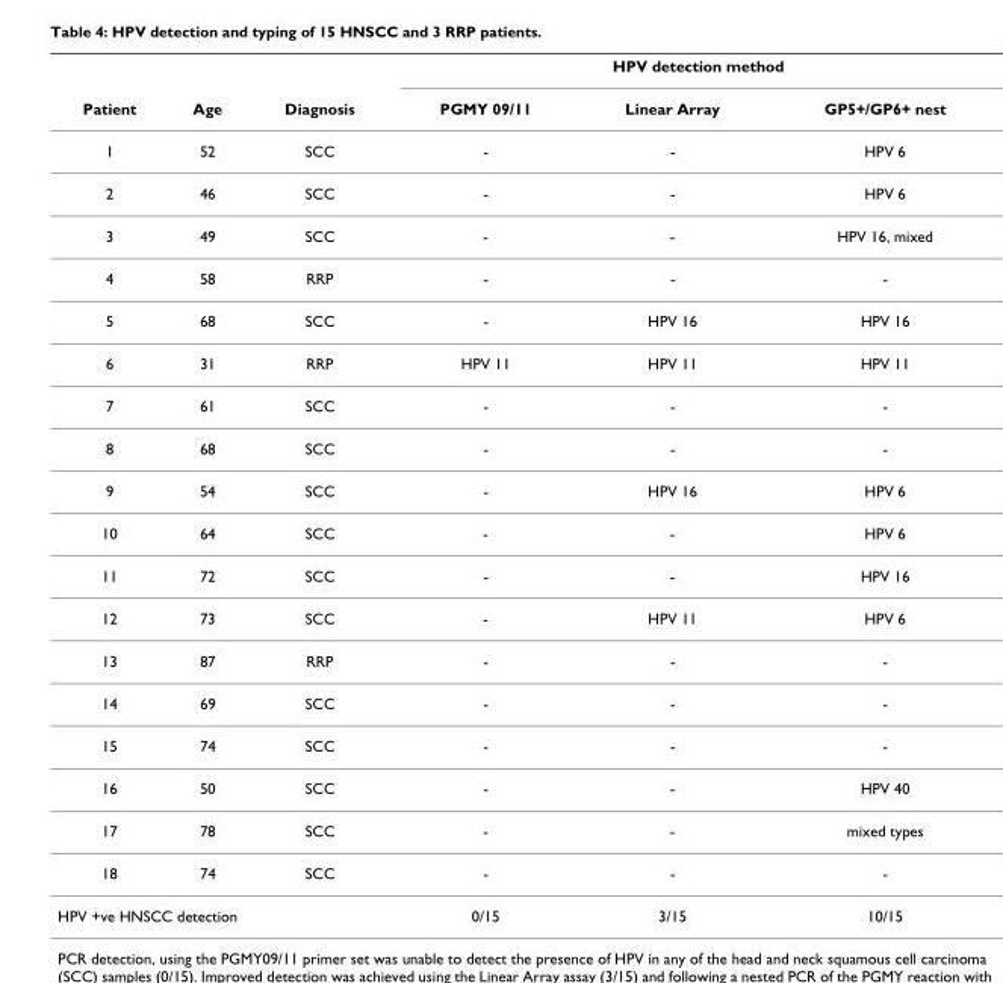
<table><thead><tr><td rowspan="2">Patient</td><td rowspan="2">Age</td><td rowspan="2">Diagnosis</td><td colspan="3">HPV detection method</td></tr><tr><td>PGMY 09/11</td><td>Linear Array</td><td>GP5+/GP6+ nest</td></tr></thead><tbody><tr><td>1</td><td>52</td><td>SCC</td><td>-</td><td>-</td><td>HPV 6</td></tr><tr><td>2</td><td>46</td><td>SCC</td><td>-</td><td>-</td><td>HPV 6</td></tr><tr><td>3</td><td>49</td><td>SCC</td><td>-</td><td>-</td><td>HPV 16, mixed</td></tr><tr><td>4</td><td>58</td><td>RRP</td><td>-</td><td>-</td><td>-</td></tr><tr><td>5</td><td>68</td><td>SCC</td><td>-</td><td>HPV 16</td><td>HPV 16</td></tr><tr><td>6</td><td>31</td><td>RRP</td><td>HPV 11</td><td>HPV 11</td><td>HPV 11</td></tr><tr><td>7</td><td>61</td><td>SCC</td><td>-</td><td>-</td><td>-</td></tr><tr><td>8</td><td>68</td><td>SCC</td><td>-</td><td>-</td><td>-</td></tr><tr><td>9</td><td>54</td><td>SCC</td><td>-</td><td>HPV 16</td><td>HPV 6</td></tr><tr><td>10</td><td>64</td><td>SCC</td><td>-</td><td>-</td><td>HPV 6</td></tr><tr><td>11</td><td>72</td><td>SCC</td><td>-</td><td>-</td><td>HPV 16</td></tr><tr><td>12</td><td>73</td><td>SCC</td><td>-</td><td>HPV 11</td><td>HPV 6</td></tr><tr><td>13</td><td>87</td><td>RRP</td><td>-</td><td>-</td><td>-</td></tr><tr><td>14</td><td>69</td><td>SCC</td><td>-</td><td>-</td><td>-</td></tr><tr><td>15</td><td>74</td><td>SCC</td><td>-</td><td>-</td><td>-</td></tr><tr><td>16</td><td>50</td><td>SCC</td><td>-</td><td>-</td><td>HPV 40</td></tr><tr><td>17</td><td>78</td><td>SCC</td><td>-</td><td>-</td><td>mixed types</td></tr><tr><td>18</td><td>74</td><td>SCC</td><td>-</td><td>-</td><td>-</td></tr><tr><td colspan="3">HPV +ve HNSCC detection</td><td>0/15</td><td>3/15</td><td>10/15</td></tr></tbody></table>